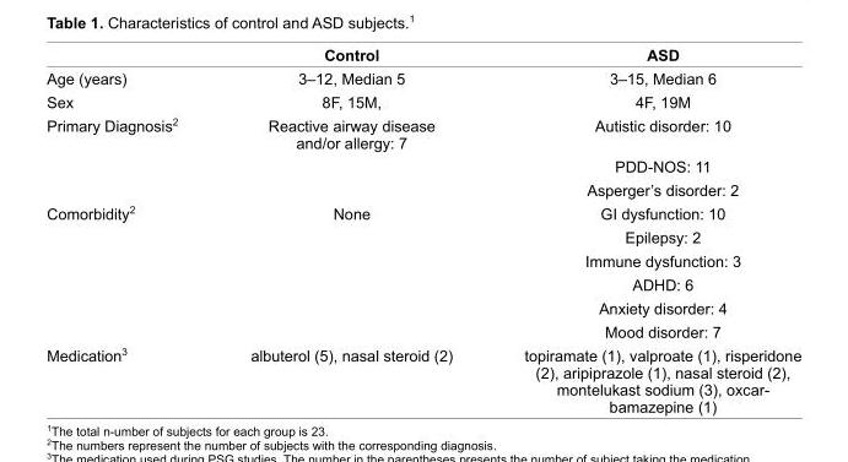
<table><thead><tr><td></td><td>Control</td><td>ASD</td></tr></thead><tbody><tr><td>Age (years)</td><td>3–12, Median 5</td><td>3–15, Median 6</td></tr><tr><td>Sex</td><td>8F, 15M,</td><td>4F, 19M</td></tr><tr><td>Primary Diagnosis<sup>2</sup></td><td>Reactive airway disease and/or allergy: 7</td><td>Autistic disorder: 10</td></tr><tr><td>Comorbidity<sup>2</sup></td><td>None</td><td>PDD-NOS: 11 Asperger’s disorder: 2 GI dysfunction: 10 Epilepsy: 2 Immune dysfunction: 3 ADHD: 6 Anxiety disorder: 4 Mood disorder: 7</td></tr><tr><td>Medication<sup>3</sup></td><td>albuterol (5), nasal steroid (2)</td><td>topiramate (1), valproate (1), risperidone (2), aripiprazole (1), nasal steroid (2), montelukast sodium (3), oxcar- bamazepine (1)</td></tr></tbody></table>